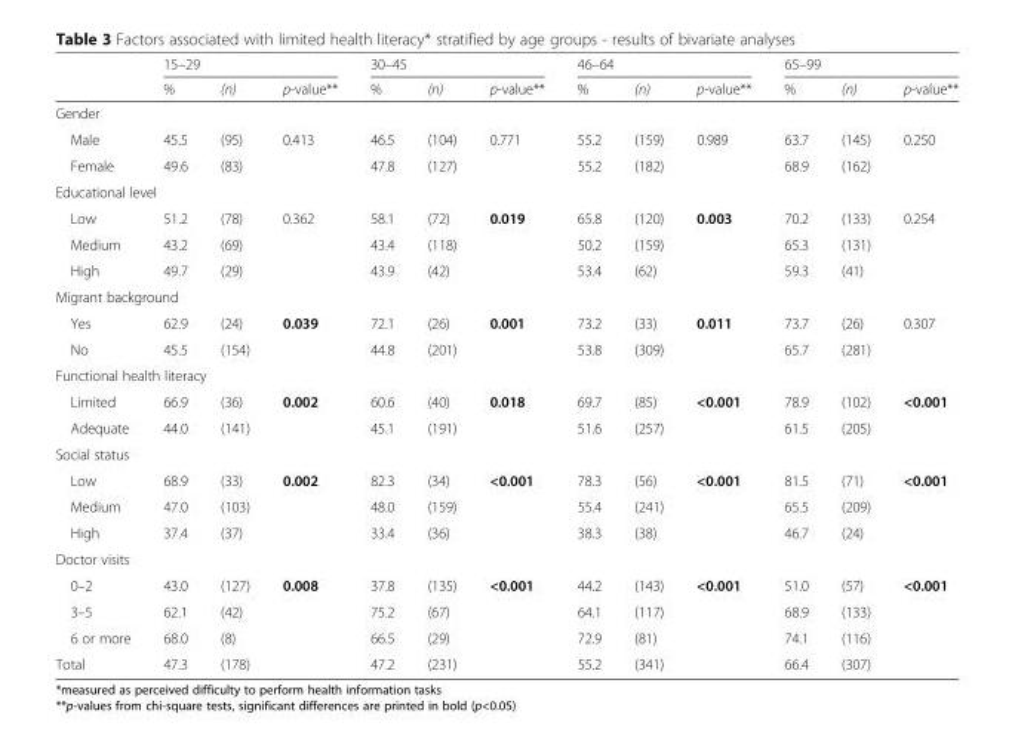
<table><thead><tr><td rowspan="2"></td><td colspan="3">15–29</td><td colspan="3">30–45</td><td colspan="3">46–64</td><td colspan="3">65–99</td></tr><tr><td>%</td><td>(n)</td><td>p-value**</td><td>%</td><td>(n)</td><td>p-value**</td><td>%</td><td>(n)</td><td>p-value**</td><td>%</td><td>(n)</td><td>p-value**</td></tr></thead><tbody><tr><td colspan="13">Gender</td></tr><tr><td>Male</td><td>45.5</td><td>(95)</td><td>0.413</td><td>46.5</td><td>(104)</td><td>0.771</td><td>55.2</td><td>(159)</td><td>0.989</td><td>63.7</td><td>(145)</td><td>0.250</td></tr><tr><td>Female</td><td>49.6</td><td>(83)</td><td></td><td>47.8</td><td>(127)</td><td></td><td>55.2</td><td>(182)</td><td></td><td>68.9</td><td>(162)</td><td></td></tr><tr><td colspan="13">Educational level</td></tr><tr><td>Low</td><td>51.2</td><td>(78)</td><td>0.362</td><td>58.1</td><td>(72)</td><td>0.019</td><td>65.8</td><td>(120)</td><td>0.003</td><td>70.2</td><td>(133)</td><td>0.254</td></tr><tr><td>Medium</td><td>43.2</td><td>(69)</td><td></td><td>43.4</td><td>(118)</td><td></td><td>50.2</td><td>(159)</td><td></td><td>65.3</td><td>(131)</td><td></td></tr><tr><td>High</td><td>49.7</td><td>(29)</td><td></td><td>43.9</td><td>(42)</td><td></td><td>53.4</td><td>(62)</td><td></td><td>59.3</td><td>(41)</td><td></td></tr><tr><td colspan="13">Migrant background</td></tr><tr><td>Yes</td><td>62.9</td><td>(24)</td><td>0.039</td><td>72.1</td><td>(26)</td><td>0.001</td><td>73.2</td><td>(33)</td><td>0.011</td><td>73.7</td><td>(26)</td><td>0.307</td></tr><tr><td>No</td><td>45.5</td><td>(154)</td><td></td><td>44.8</td><td>(201)</td><td></td><td>53.8</td><td>(309)</td><td></td><td>65.7</td><td>(281)</td><td></td></tr><tr><td colspan="13">Functional health literacy</td></tr><tr><td>Limited</td><td>66.9</td><td>(36)</td><td>0.002</td><td>60.6</td><td>(40)</td><td>0.018</td><td>69.7</td><td>(85)</td><td>&lt;0.001</td><td>78.9</td><td>(102)</td><td>&lt;0.001</td></tr><tr><td>Adequate</td><td>44.0</td><td>(141)</td><td></td><td>45.1</td><td>(191)</td><td></td><td>51.6</td><td>(257)</td><td></td><td>61.5</td><td>(205)</td><td></td></tr><tr><td colspan="13">Social status</td></tr><tr><td>Low</td><td>68.9</td><td>(33)</td><td>0.002</td><td>82.3</td><td>(34)</td><td>&lt;0.001</td><td>78.3</td><td>(56)</td><td>&lt;0.001</td><td>81.5</td><td>(71)</td><td>&lt;0.001</td></tr><tr><td>Medium</td><td>47.0</td><td>(103)</td><td></td><td>48.0</td><td>(159)</td><td></td><td>55.4</td><td>(241)</td><td></td><td>65.5</td><td>(209)</td><td></td></tr><tr><td>High</td><td>37.4</td><td>(37)</td><td></td><td>33.4</td><td>(36)</td><td></td><td>38.3</td><td>(38)</td><td></td><td>46.7</td><td>(24)</td><td></td></tr><tr><td colspan="13">Doctor visits</td></tr><tr><td>0–2</td><td>43.0</td><td>(127)</td><td>0.008</td><td>37.8</td><td>(135)</td><td>&lt;0.001</td><td>44.2</td><td>(143)</td><td>&lt;0.001</td><td>51.0</td><td>(57)</td><td>&lt;0.001</td></tr><tr><td>3–5</td><td>62.1</td><td>(42)</td><td></td><td>75.2</td><td>(67)</td><td></td><td>64.1</td><td>(117)</td><td></td><td>68.9</td><td>(133)</td><td></td></tr><tr><td>6 or more</td><td>68.0</td><td>(8)</td><td></td><td>66.5</td><td>(29)</td><td></td><td>72.9</td><td>(81)</td><td></td><td>74.1</td><td>(116)</td><td></td></tr><tr><td>Total</td><td>47.3</td><td>(178)</td><td></td><td>47.2</td><td>(231)</td><td></td><td>55.2</td><td>(341)</td><td></td><td>66.4</td><td>(307)</td><td></td></tr></tbody></table>